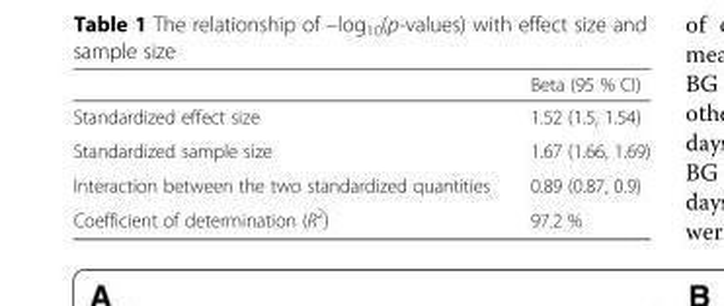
<table><thead><tr><td></td><td>Beta (95 % CI)</td></tr></thead><tbody><tr><td>Standardized effect size</td><td>1.52 (1.5, 1.54)</td></tr><tr><td>Standardized sample size</td><td>1.67 (1.66, 1.69)</td></tr><tr><td>Interaction between the two standardized quantities</td><td>0.89 (0.87, 0.9)</td></tr><tr><td>Coefficient of determination (R<sup>2</sup>)</td><td>97.2 %</td></tr></tbody></table>